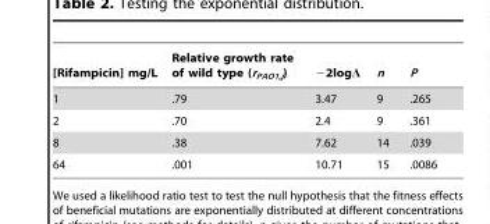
<table><thead><tr><td>[Rifampicin] mg/L</td><td>Relative growth rate of wild type (r<sub>PAO1,j</sub>)</td><td>−2logΛ</td><td>n</td><td>P</td></tr></thead><tbody><tr><td>1</td><td>.79</td><td>3.47</td><td>9</td><td>.265</td></tr><tr><td>2</td><td>.70</td><td>2.4</td><td>9</td><td>.361</td></tr><tr><td>8</td><td>.38</td><td>7.62</td><td>14</td><td>.039</td></tr><tr><td>64</td><td>.001</td><td>10.71</td><td>15</td><td>.0086</td></tr></tbody></table>